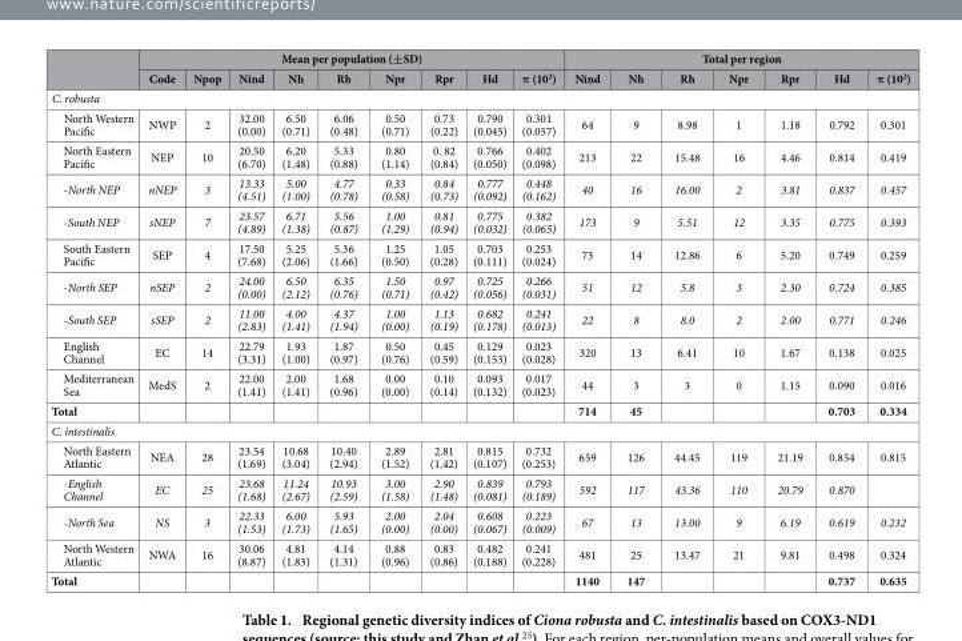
<table><thead><tr><td rowspan="2"></td><td colspan="9">Mean per population (±SD)</td><td colspan="7">Total per region</td></tr><tr><td>Code</td><td>Npop</td><td>Nind</td><td>Nh</td><td>Rh</td><td>Npr</td><td>Rpr</td><td>Hd</td><td>π (10<sup>2</sup>)</td><td>Nind</td><td>Nh</td><td>Rh</td><td>Npr</td><td>Rpr</td><td>Hd</td><td>π (10<sup>2</sup>)</td></tr></thead><tbody><tr><td colspan="17">C. robusta</td></tr><tr><td>North Western Pacific</td><td>NWP</td><td>2</td><td>32.00 (0.00)</td><td>6.50 (0.71)</td><td>6.06 (0.48)</td><td>0.50 (0.71)</td><td>0.73 (0.22)</td><td>0.790 (0.045)</td><td>0.301 (0.057)</td><td>64</td><td>9</td><td>8.98</td><td>1</td><td>1.18</td><td>0.792</td><td>0.301</td></tr><tr><td>North Eastern Pacific</td><td>NEP</td><td>10</td><td>20.50 (6.70)</td><td>6.20 (1.48)</td><td>5.33 (0.88)</td><td>0.80 (1.14)</td><td>0. 82 (0.84)</td><td>0.766 (0.050)</td><td>0.402 (0.098)</td><td>213</td><td>22</td><td>15.48</td><td>16</td><td>4.46</td><td>0.814</td><td>0.419</td></tr><tr><td>-North NEP</td><td>nNEP</td><td>3</td><td>13.33 (4.51)</td><td>5.00 (1.00)</td><td>4.77 (0.78)</td><td>0.33 (0.58)</td><td>0.84 (0.73)</td><td>0.777 (0.092)</td><td>0.448 (0.162)</td><td>40</td><td>16</td><td>16.00</td><td>2</td><td>3.81</td><td>0.837</td><td>0.457</td></tr><tr><td>-South NEP</td><td>sNEP</td><td>7</td><td>23.57 (4.89)</td><td>6.71 (1.38)</td><td>5.56 (0.87)</td><td>1.00 (1.29)</td><td>0.81 (0.94)</td><td>0.775 (0.032)</td><td>0.382 (0.065)</td><td>173</td><td>9</td><td>5.51</td><td>12</td><td>3.35</td><td>0.775</td><td>0.393</td></tr><tr><td>South Eastern Pacific</td><td>SEP</td><td>4</td><td>17.50 (7.68)</td><td>5.25 (2.06)</td><td>5.36 (1.66)</td><td>1.25 (0.50)</td><td>1.05 (0.28)</td><td>0.703 (0.111)</td><td>0.253 (0.024)</td><td>73</td><td>14</td><td>12.86</td><td>6</td><td>5.20</td><td>0.749</td><td>0.259</td></tr><tr><td>-North SEP</td><td>nSEP</td><td>2</td><td>24.00 (0.00)</td><td>6.50 (2.12)</td><td>6.35 (0.76)</td><td>1.50 (0.71)</td><td>0.97 (0.42)</td><td>0.725 (0.056)</td><td>0.266 (0.031)</td><td>51</td><td>12</td><td>5.8</td><td>3</td><td>2.30</td><td>0.724</td><td>0.385</td></tr><tr><td>-South SEP</td><td>sSEP</td><td>2</td><td>11.00 (2.83)</td><td>4.00 (1.41)</td><td>4.37 (1.94)</td><td>1.00 (0.00)</td><td>1.13 (0.19)</td><td>0.682 (0.178)</td><td>0.241 (0.013)</td><td>22</td><td>8</td><td>8.0</td><td>2</td><td>2.00</td><td>0.771</td><td>0.246</td></tr><tr><td>English Channel</td><td>EC</td><td>14</td><td>22.79 (3.31)</td><td>1.93 (1.00)</td><td>1.87 (0.97)</td><td>0.50 (0.76)</td><td>0.45 (0.59)</td><td>0.129 (0.153)</td><td>0.023 (0.028)</td><td>320</td><td>13</td><td>6.41</td><td>10</td><td>1.67</td><td>0.138</td><td>0.025</td></tr><tr><td>Mediterranean Sea</td><td>MedS</td><td>2</td><td>22.00 (1.41)</td><td>2.00 (1.41)</td><td>1.68 (0.96)</td><td>0.00 (0.00)</td><td>0.10 (0.14)</td><td>0.093 (0.132)</td><td>0.017 (0.023)</td><td>44</td><td>3</td><td>3</td><td>0</td><td>1.15</td><td>0.090</td><td>0.016</td></tr><tr><td>Total</td><td></td><td></td><td></td><td></td><td></td><td></td><td></td><td></td><td></td><td>714</td><td>45</td><td></td><td></td><td></td><td>0.703</td><td>0.334</td></tr><tr><td colspan="17">C. intestinalis</td></tr><tr><td>North Eastern Atlantic</td><td>NEA</td><td>28</td><td>23.54 (1.69)</td><td>10.68 (3.04)</td><td>10.40 (2.94)</td><td>2.89 (1.52)</td><td>2.81 (1.42)</td><td>0.815 (0.107)</td><td>0.732 (0.253)</td><td>659</td><td>126</td><td>44.45</td><td>119</td><td>21.19</td><td>0.854</td><td>0.815</td></tr><tr><td>-English Channel</td><td>EC</td><td>25</td><td>23.68 (1.68)</td><td>11.24 (2.67)</td><td>10.93 (2.59)</td><td>3.00 (1.58)</td><td>2.90 (1.48)</td><td>0.839 (0.081)</td><td>0.793 (0.189)</td><td>592</td><td>117</td><td>43.36</td><td>110</td><td>20.79</td><td>0.870</td><td></td></tr><tr><td>-North Sea</td><td>NS</td><td>3</td><td>22.33 (1.53)</td><td>6.00 (1.73)</td><td>5.93 (1.65)</td><td>2.00 (0.00)</td><td>2.04 (0.00)</td><td>0.608 (0.067)</td><td>0.223 (0.009)</td><td>67</td><td>13</td><td>13.00</td><td>9</td><td>6.19</td><td>0.619</td><td>0.232</td></tr><tr><td>North Western Atlantic</td><td>NWA</td><td>16</td><td>30.06 (8.87)</td><td>4.81 (1.83)</td><td>4.14 (1.31)</td><td>0.88 (0.96)</td><td>0.83 (0.86)</td><td>0.482 (0.188)</td><td>0.241 (0.228)</td><td>481</td><td>25</td><td>13.47</td><td>21</td><td>9.81</td><td>0.498</td><td>0.324</td></tr><tr><td>Total</td><td></td><td></td><td></td><td></td><td></td><td></td><td></td><td></td><td></td><td>1140</td><td>147</td><td></td><td></td><td></td><td>0.737</td><td>0.635</td></tr></tbody></table>